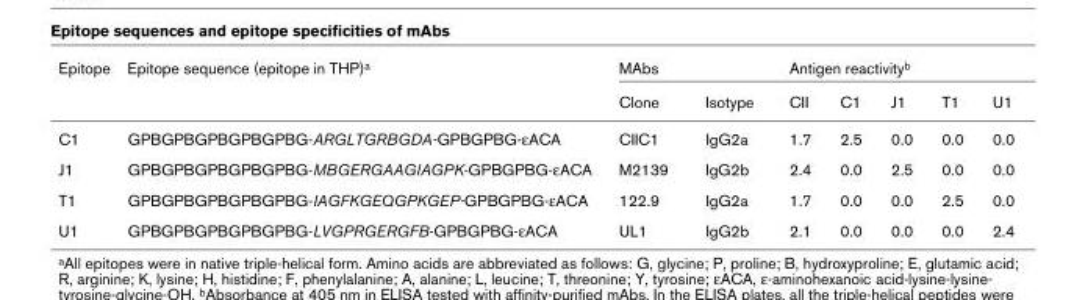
<table><thead><tr><td rowspan="2">Epitope</td><td rowspan="2">Epitope sequence (epitope in THP)a</td><td rowspan="2">MAbs Clone</td><td rowspan="2">Isotype</td><td colspan="5">Antigen reactivityb</td></tr><tr><td>CII</td><td>C1</td><td>J1</td><td>T1</td><td>U1</td></tr></thead><tbody><tr><td>C1</td><td>GPBGPBGPBGPBGPBG-ARGLTGRBGDA-GPBGPBG-εACA</td><td>CIIC1</td><td>IgG2a</td><td>1.7</td><td>2.5</td><td>0.0</td><td>0.0</td><td>0.0</td></tr><tr><td>J1</td><td>GPBGPBGPBGPBGPBG-MBGERGAAGIAGPK-GPBGPBG-εACA</td><td>M2139</td><td>IgG2b</td><td>2.4</td><td>0.0</td><td>2.5</td><td>0.0</td><td>0.0</td></tr><tr><td>T1</td><td>GPBGPBGPBGPBGPBG-IAGFKGEQGPKGEP-GPBGPBG-εACA</td><td>122.9</td><td>IgG2a</td><td>1.7</td><td>0.0</td><td>0.0</td><td>2.5</td><td>0.0</td></tr><tr><td>U1</td><td>GPBGPBGPBGPBGPBG-LVGPRGERGFB-GPBGPBG-εACA</td><td>UL1</td><td>IgG2b</td><td>2.1</td><td>0.0</td><td>0.0</td><td>0.0</td><td>2.4</td></tr></tbody></table>